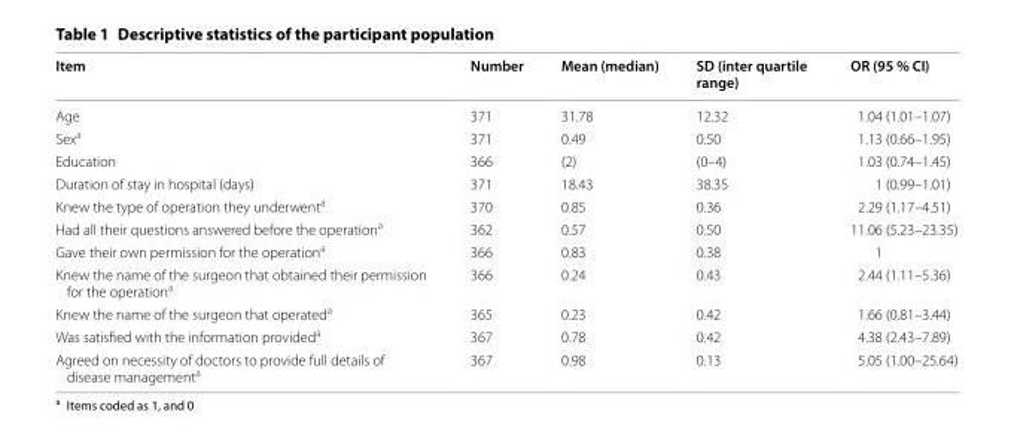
<table><thead><tr><td>Item</td><td>Number</td><td>Mean (median)</td><td>SD (inter quartile range)</td><td>OR (95 % CI)</td></tr></thead><tbody><tr><td>Age</td><td>371</td><td>31.78</td><td>12.32</td><td>1.04 (1.01–1.07)</td></tr><tr><td>Sex<sup>a</sup></td><td>371</td><td>0.49</td><td>0.50</td><td>1.13 (0.66–1.95)</td></tr><tr><td>Education</td><td>366</td><td>(2)</td><td>(0–4)</td><td>1.03 (0.74–1.45)</td></tr><tr><td>Duration of stay in hospital (days)</td><td>371</td><td>18.43</td><td>38.35</td><td>1 (0.99–1.01)</td></tr><tr><td>Knew the type of operation they underwent<sup>a</sup></td><td>370</td><td>0.85</td><td>0.36</td><td>2.29 (1.17–4.51)</td></tr><tr><td>Had all their questions answered before the operation<sup>a</sup></td><td>362</td><td>0.57</td><td>0.50</td><td>11.06 (5.23–23.35)</td></tr><tr><td>Gave their own permission for the operation<sup>a</sup></td><td>366</td><td>0.83</td><td>0.38</td><td>1</td></tr><tr><td>Knew the name of the surgeon that obtained their permission for the operation<sup>a</sup></td><td>366</td><td>0.24</td><td>0.43</td><td>2.44 (1.11–5.36)</td></tr><tr><td>Knew the name of the surgeon that operated<sup>a</sup></td><td>365</td><td>0.23</td><td>0.42</td><td>1.66 (0.81–3.44)</td></tr><tr><td>Was satisfied with the information provided<sup>a</sup></td><td>367</td><td>0.78</td><td>0.42</td><td>4.38 (2.43–7.89)</td></tr><tr><td>Agreed on necessity of doctors to provide full details of disease management<sup>a</sup></td><td>367</td><td>0.98</td><td>0.13</td><td>5.05 (1.00–25.64)</td></tr></tbody></table>